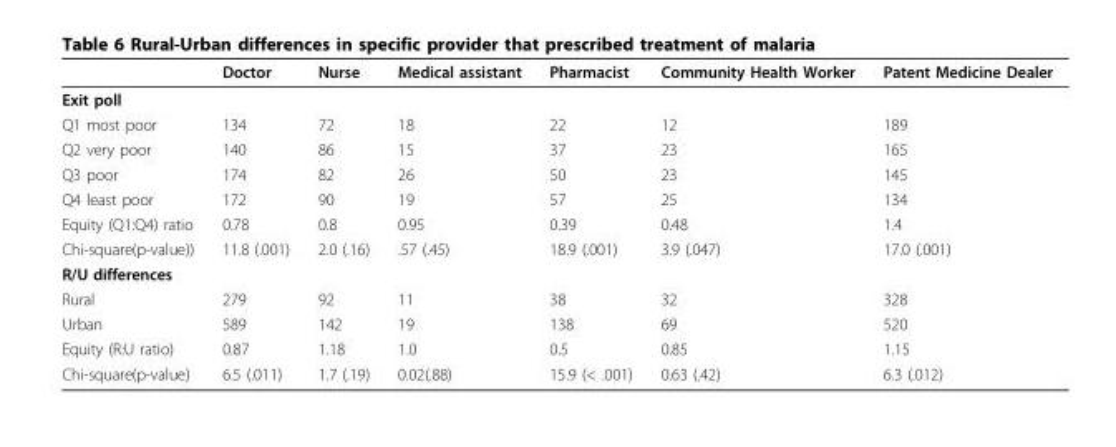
<table><thead><tr><td></td><td>Doctor</td><td>Nurse</td><td>Medical assistant</td><td>Pharmacist</td><td>Community Health Worker</td><td>Patent Medicine Dealer</td></tr></thead><tbody><tr><td colspan="7">Exit poll</td></tr><tr><td>Q1 most poor</td><td>134</td><td>72</td><td>18</td><td>22</td><td>12</td><td>189</td></tr><tr><td>Q2 very poor</td><td>140</td><td>86</td><td>15</td><td>37</td><td>23</td><td>165</td></tr><tr><td>Q3 poor</td><td>174</td><td>82</td><td>26</td><td>50</td><td>23</td><td>145</td></tr><tr><td>Q4 least poor</td><td>172</td><td>90</td><td>19</td><td>57</td><td>25</td><td>134</td></tr><tr><td>Equity (Q1:Q4) ratio</td><td>0.78</td><td>0.8</td><td>0.95</td><td>0.39</td><td>0.48</td><td>1.4</td></tr><tr><td>Chi-square(p-value))</td><td>11.8 (.001)</td><td>2.0 (.16)</td><td>.57 (.45)</td><td>18.9 (.001)</td><td>3.9 (.047)</td><td>17.0 (.001)</td></tr><tr><td colspan="7">R/U differences</td></tr><tr><td>Rural</td><td>279</td><td>92</td><td>11</td><td>38</td><td>32</td><td>328</td></tr><tr><td>Urban</td><td>589</td><td>142</td><td>19</td><td>138</td><td>69</td><td>520</td></tr><tr><td>Equity (R:U ratio)</td><td>0.87</td><td>1.18</td><td>1.0</td><td>0.5</td><td>0.85</td><td>1.15</td></tr><tr><td>Chi-square(p-value)</td><td>6.5 (.011)</td><td>1.7 (.19)</td><td>0.02(.88)</td><td>15.9 (&lt; .001)</td><td>0.63 (.42)</td><td>6.3 (.012)</td></tr></tbody></table>